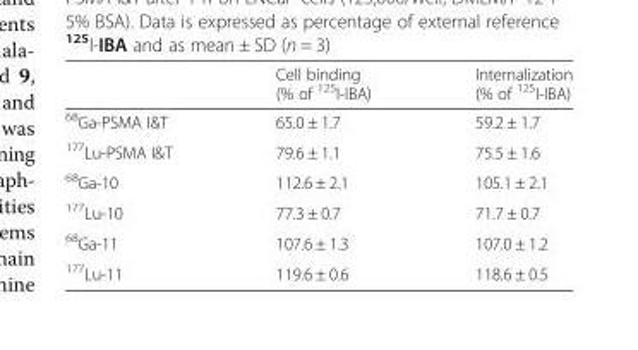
<table><thead><tr><td></td><td>Cell binding (% of <sup>125</sup>I-IBA)</td><td>Internalization (% of <sup>125</sup>I-IBA)</td></tr></thead><tbody><tr><td><sup>68</sup>Ga-PSMA I&amp;T</td><td>65.0 ± 1.7</td><td>59.2 ± 1.7</td></tr><tr><td><sup>177</sup>Lu-PSMA I&amp;T</td><td>79.6 ± 1.1</td><td>75.5 ± 1.6</td></tr><tr><td><sup>68</sup>Ga-10</td><td>112.6 ± 2.1</td><td>105.1 ± 2.1</td></tr><tr><td><sup>177</sup>Lu-10</td><td>77.3 ± 0.7</td><td>71.7 ± 0.7</td></tr><tr><td><sup>68</sup>Ga-11</td><td>107.6 ± 1.3</td><td>107.0 ± 1.2</td></tr><tr><td><sup>177</sup>Lu-11</td><td>119.6 ± 0.6</td><td>118.6 ± 0.5</td></tr></tbody></table>